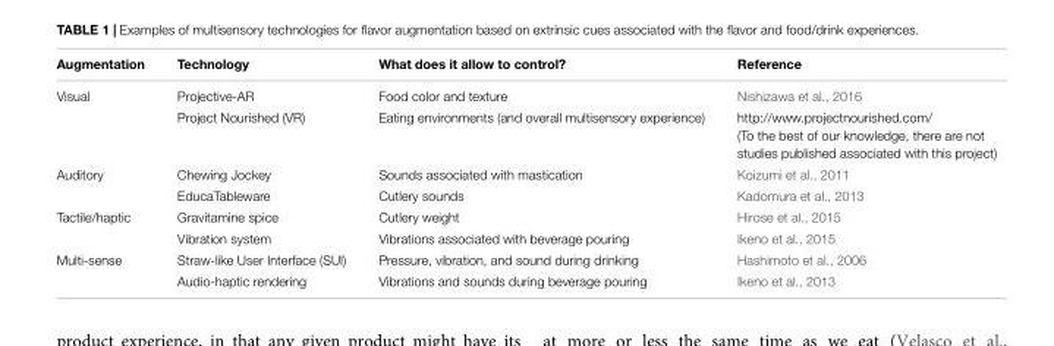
<table><thead><tr><td>Augmentation</td><td>Technology</td><td>What does it allow to control?</td><td>Reference</td></tr></thead><tbody><tr><td rowspan="2">Visual</td><td>Projective-AR</td><td>Food color and texture</td><td>Nishizawa et al., 2016</td></tr><tr><td>Project Nourished (VR)</td><td>Eating environments (and overall multisensory experience)</td><td>http://www.projectnourished.com/ (To the best of our knowledge, there are not studies published associated with this project)</td></tr><tr><td rowspan="2">Auditory</td><td>Chewing Jockey</td><td>Sounds associated with mastication</td><td>Koizumi et al., 2011</td></tr><tr><td>EducaTableware</td><td>Cutlery sounds</td><td>Kadomura et al., 2013</td></tr><tr><td rowspan="2">Tactile/haptic</td><td>Gravitamine spice</td><td>Cutlery weight</td><td>Hirose et al., 2015</td></tr><tr><td>Vibration system</td><td>Vibrations associated with beverage pouring</td><td>Ikeno et al., 2015</td></tr><tr><td rowspan="2">Multi-sense</td><td>Straw-like User Interface (SUI)</td><td>Pressure, vibration, and sound during drinking</td><td>Hashimoto et al., 2006</td></tr><tr><td>Audio-haptic rendering</td><td>Vibrations and sounds during beverage pouring</td><td>Ikeno et al., 2013</td></tr></tbody></table>